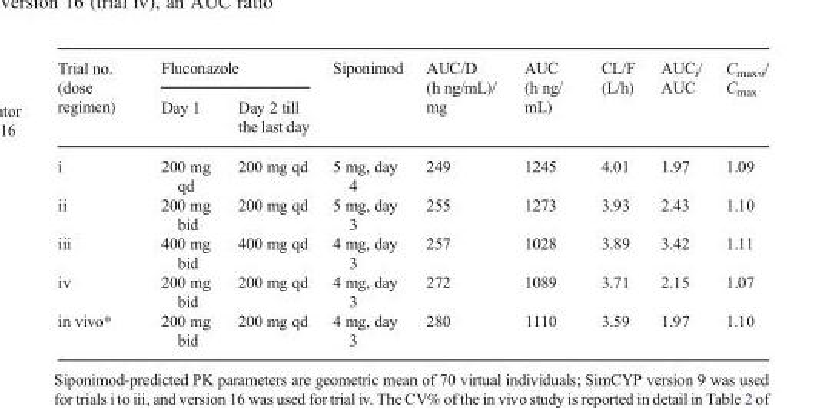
<table><thead><tr><td rowspan="2">Trial no. (dose regimen)</td><td colspan="2">Fluconazole</td><td rowspan="2">Siponimod</td><td rowspan="2">AUC/D (h ng/mL)/ mg</td><td rowspan="2">AUC (h ng/ mL)</td><td rowspan="2">CL/F (L/h)</td><td rowspan="2">AUC<sub>i</sub>/ AUC</td><td rowspan="2">C<sub>max</sub>,<sub>i</sub>/ C<sub>max</sub></td></tr><tr><td>Day 1</td><td>Day 2 till the last day</td></tr></thead><tbody><tr><td>i</td><td>200 mg qd</td><td>200 mg qd</td><td>5 mg, day 4</td><td>249</td><td>1245</td><td>4.01</td><td>1.97</td><td>1.09</td></tr><tr><td>ii</td><td>200 mg bid</td><td>200 mg qd</td><td>5 mg, day 3</td><td>255</td><td>1273</td><td>3.93</td><td>2.43</td><td>1.10</td></tr><tr><td>iii</td><td>400 mg bid</td><td>400 mg qd</td><td>4 mg, day 3</td><td>257</td><td>1028</td><td>3.89</td><td>3.42</td><td>1.11</td></tr><tr><td>iv</td><td>200 mg bid</td><td>200 mg qd</td><td>4 mg, day 3</td><td>272</td><td>1089</td><td>3.71</td><td>2.15</td><td>1.07</td></tr><tr><td>in vivo*</td><td>200 mg bid</td><td>200 mg qd</td><td>4 mg, day 3</td><td>280</td><td>1110</td><td>3.59</td><td>1.97</td><td>1.10</td></tr></tbody></table>